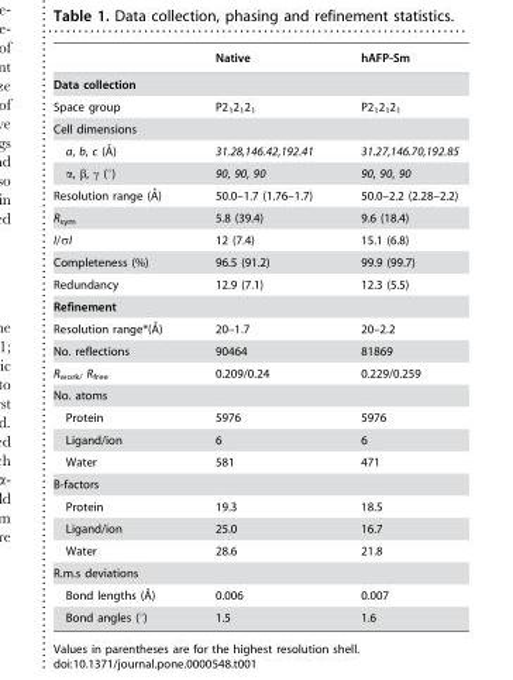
<table><thead><tr><td></td><td>Native</td><td>hAFP-Sm</td></tr></thead><tbody><tr><td colspan="3">Data collection</td></tr><tr><td>Space group</td><td>P2<sub>1</sub>2<sub>1</sub>2<sub>1</sub></td><td>P2<sub>1</sub>2<sub>1</sub>2<sub>1</sub></td></tr><tr><td colspan="3">Cell dimensions</td></tr><tr><td>a, b, c (A˚)</td><td>31.28,146.42,192.41</td><td>31.27,146.70,192.85</td></tr><tr><td>α, β, γ (°)</td><td>90, 90, 90</td><td>90, 90, 90</td></tr><tr><td>Resolution range (A˚)</td><td>50.0–1.7 (1.76–1.7)</td><td>50.0–2.2 (2.28–2.2)</td></tr><tr><td>R<sub>sym</sub></td><td>5.8 (39.4)</td><td>9.6 (18.4)</td></tr><tr><td>I/σI</td><td>12 (7.4)</td><td>15.1 (6.8)</td></tr><tr><td>Completeness (%)</td><td>96.5 (91.2)</td><td>99.9 (99.7)</td></tr><tr><td>Redundancy</td><td>12.9 (7.1)</td><td>12.3 (5.5)</td></tr><tr><td colspan="3">Refinement</td></tr><tr><td>Resolution range*(A˚)</td><td>20–1.7</td><td>20–2.2</td></tr><tr><td>No. reflections</td><td>90464</td><td>81869</td></tr><tr><td>R<sub>work/</sub> R<sub>free</sub></td><td>0.209/0.24</td><td>0.229/0.259</td></tr><tr><td colspan="3">No. atoms</td></tr><tr><td>Protein</td><td>5976</td><td>5976</td></tr><tr><td>Ligand/ion</td><td>6</td><td>6</td></tr><tr><td>Water</td><td>581</td><td>471</td></tr><tr><td colspan="3">B-factors</td></tr><tr><td>Protein</td><td>19.3</td><td>18.5</td></tr><tr><td>Ligand/ion</td><td>25.0</td><td>16.7</td></tr><tr><td>Water</td><td>28.6</td><td>21.8</td></tr><tr><td colspan="3">R.m.s deviations</td></tr><tr><td>Bond lengths (A˚)</td><td>0.006</td><td>0.007</td></tr><tr><td>Bond angles (°)</td><td>1.5</td><td>1.6</td></tr></tbody></table>